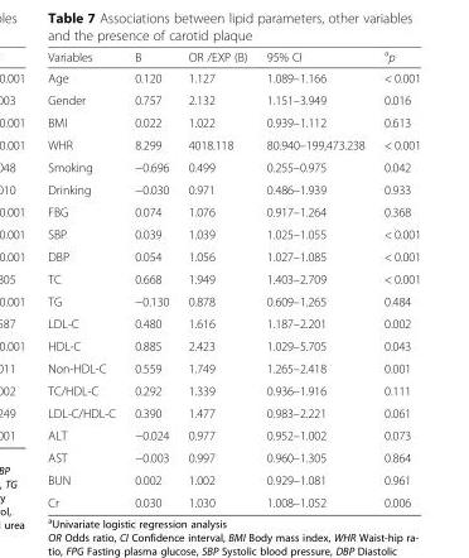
<table><thead><tr><td>Variables</td><td>B</td><td>OR /EXP (B)</td><td>95% CI</td><td><sup>a</sup>p</td></tr></thead><tbody><tr><td>Age</td><td>0.120</td><td>1.127</td><td>1.089–1.166</td><td>&lt; 0.001</td></tr><tr><td>Gender</td><td>0.757</td><td>2.132</td><td>1.151–3.949</td><td>0.016</td></tr><tr><td>BMI</td><td>0.022</td><td>1.022</td><td>0.939–1.112</td><td>0.613</td></tr><tr><td>WHR</td><td>8.299</td><td>4018.118</td><td>80.940–199,473.238</td><td>&lt; 0.001</td></tr><tr><td>Smoking</td><td>−0.696</td><td>0.499</td><td>0.255–0.975</td><td>0.042</td></tr><tr><td>Drinking</td><td>−0.030</td><td>0.971</td><td>0.486–1.939</td><td>0.933</td></tr><tr><td>FBG</td><td>0.074</td><td>1.076</td><td>0.917–1.264</td><td>0.368</td></tr><tr><td>SBP</td><td>0.039</td><td>1.039</td><td>1.025–1.055</td><td>&lt; 0.001</td></tr><tr><td>DBP</td><td>0.054</td><td>1.056</td><td>1.027–1.085</td><td>&lt; 0.001</td></tr><tr><td>TC</td><td>0.668</td><td>1.949</td><td>1.403–2.709</td><td>&lt; 0.001</td></tr><tr><td>TG</td><td>−0.130</td><td>0.878</td><td>0.609–1.265</td><td>0.484</td></tr><tr><td>LDL-C</td><td>0.480</td><td>1.616</td><td>1.187–2.201</td><td>0.002</td></tr><tr><td>HDL-C</td><td>0.885</td><td>2.423</td><td>1.029–5.705</td><td>0.043</td></tr><tr><td>Non-HDL-C</td><td>0.559</td><td>1.749</td><td>1.265–2.418</td><td>0.001</td></tr><tr><td>TC/HDL-C</td><td>0.292</td><td>1.339</td><td>0.936–1.916</td><td>0.111</td></tr><tr><td>LDL-C/HDL-C</td><td>0.390</td><td>1.477</td><td>0.983–2.221</td><td>0.061</td></tr><tr><td>ALT</td><td>−0.024</td><td>0.977</td><td>0.952–1.002</td><td>0.073</td></tr><tr><td>AST</td><td>−0.003</td><td>0.997</td><td>0.960–1.305</td><td>0.864</td></tr><tr><td>BUN</td><td>0.002</td><td>1.002</td><td>0.929–1.081</td><td>0.961</td></tr><tr><td>Cr</td><td>0.030</td><td>1.030</td><td>1.008–1.052</td><td>0.006</td></tr></tbody></table>